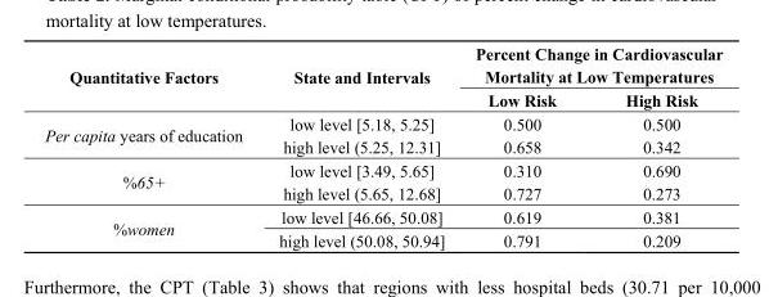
<table><thead><tr><td rowspan="2">Quantitative Factors</td><td rowspan="2">State and Intervals</td><td colspan="2">Percent Change in Cardiovascular Mortality at Low Temperatures</td></tr><tr><td>Low Risk</td><td>High Risk</td></tr></thead><tbody><tr><td rowspan="2">Per capita years of education</td><td>low level [5.18, 5.25]</td><td>0.500</td><td>0.500</td></tr><tr><td>high level (5.25, 12.31]</td><td>0.658</td><td>0.342</td></tr><tr><td rowspan="2">%65+</td><td>low level [3.49, 5.65]</td><td>0.310</td><td>0.690</td></tr><tr><td>high level (5.65, 12.68]</td><td>0.727</td><td>0.273</td></tr><tr><td rowspan="2">%women</td><td>low level [46.66, 50.08]</td><td>0.619</td><td>0.381</td></tr><tr><td>high level (50.08, 50.94]</td><td>0.791</td><td>0.209</td></tr></tbody></table>